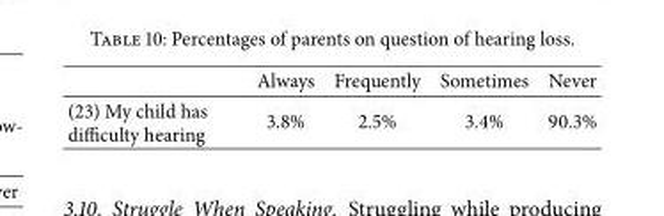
<table><thead><tr><td></td><td>Always</td><td>Frequently</td><td>Sometimes</td><td>Never</td></tr></thead><tbody><tr><td>(23) My child has difficulty hearing</td><td>3.8%</td><td>2.5%</td><td>3.4%</td><td>90.3%</td></tr></tbody></table>